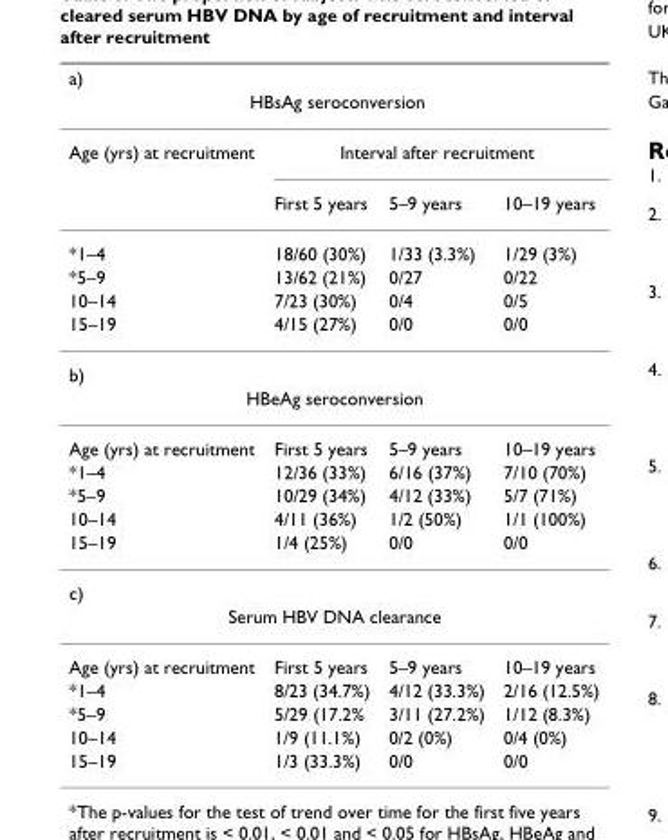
<table><thead><tr><td colspan="4">a) HBsAg seroconversion</td></tr><tr><td rowspan="2">Age (yrs) at recruitment</td><td colspan="3">Interval after recruitment</td></tr><tr><td>First 5 years</td><td>5–9 years</td><td>10–19 years</td></tr></thead><tbody><tr><td>*1–4</td><td>18/60 (30%)</td><td>1/33 (3.3%)</td><td>1/29 (3%)</td></tr><tr><td>*5–9</td><td>13/62 (21%)</td><td>0/27</td><td>0/22</td></tr><tr><td>10–14</td><td>7/23 (30%)</td><td>0/4</td><td>0/5</td></tr><tr><td>15–19</td><td>4/15 (27%)</td><td>0/0</td><td>0/0</td></tr><tr><td colspan="4">b)</td></tr><tr><td colspan="4">HBeAg seroconversion</td></tr><tr><td>Age (yrs) at recruitment</td><td>First 5 years</td><td>5–9 years</td><td>10–19 years</td></tr><tr><td>*1–4</td><td>12/36 (33%)</td><td>6/16 (37%)</td><td>7/10 (70%)</td></tr><tr><td>*5–9</td><td>10/29 (34%)</td><td>4/12 (33%)</td><td>5/7 (71%)</td></tr><tr><td>10–14</td><td>4/11 (36%)</td><td>1/2 (50%)</td><td>1/1 (100%)</td></tr><tr><td>15–19</td><td>1/4 (25%)</td><td>0/0</td><td>0/0</td></tr><tr><td colspan="4">c)</td></tr><tr><td colspan="4">Serum HBV DNA clearance</td></tr><tr><td>Age (yrs) at recruitment</td><td>First 5 years</td><td>5–9 years</td><td>10–19 years</td></tr><tr><td>*1–4</td><td>8/23 (34.7%)</td><td>4/12 (33.3%)</td><td>2/16 (12.5%)</td></tr><tr><td>*5–9</td><td>5/29 (17.2%</td><td>3/11 (27.2%)</td><td>1/12 (8.3%)</td></tr><tr><td>10–14</td><td>1/9 (11.1%)</td><td>0/2 (0%)</td><td>0/4 (0%)</td></tr><tr><td>15–19</td><td>1/3 (33.3%)</td><td>0/0</td><td>0/0</td></tr></tbody></table>